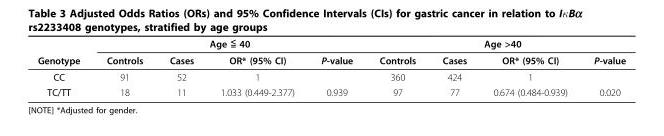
<table><thead><tr><td rowspan="2">Genotype</td><td colspan="4">Age ≦ 40</td><td colspan="4">Age &gt;40</td></tr><tr><td>Controls</td><td>Cases</td><td>OR* (95% CI)</td><td>P-value</td><td>Controls</td><td>Cases</td><td>OR* (95% CI)</td><td>P-value</td></tr></thead><tbody><tr><td>CC</td><td>91</td><td>52</td><td>1</td><td></td><td>360</td><td>424</td><td>1</td><td></td></tr><tr><td>TC/TT</td><td>18</td><td>11</td><td>1.033 (0.449-2.377)</td><td>0.939</td><td>97</td><td>77</td><td>0.674 (0.484-0.939)</td><td>0.020</td></tr></tbody></table>